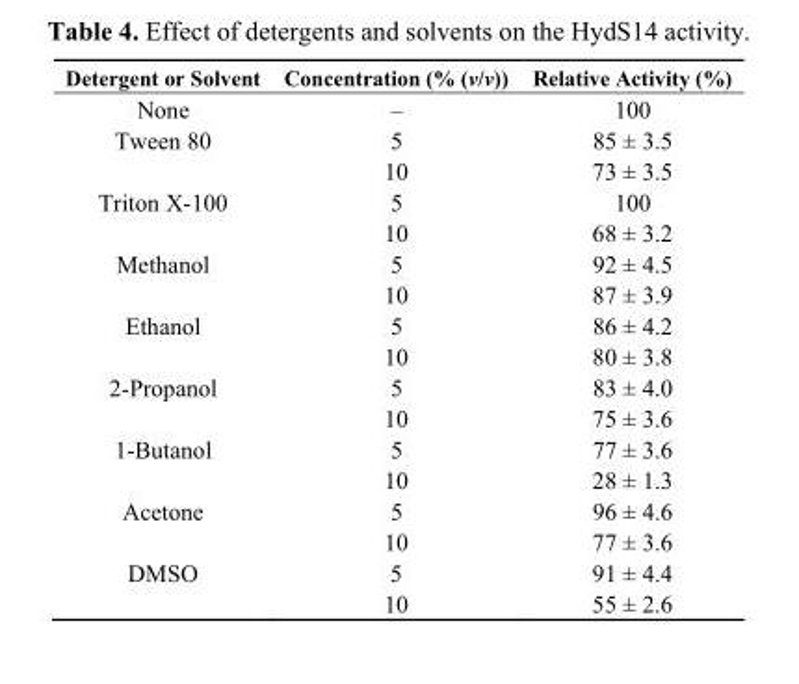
<table><thead><tr><td>Detergent or Solvent</td><td>Concentration (% (v/v))</td><td>Relative Activity (%)</td></tr></thead><tbody><tr><td>None</td><td>–</td><td>100</td></tr><tr><td rowspan="2">Tween 80</td><td>5</td><td>85 ± 3.5</td></tr><tr><td>10</td><td>73 ± 3.5</td></tr><tr><td rowspan="2">Triton X-100</td><td>5</td><td>100</td></tr><tr><td>10</td><td>68 ± 3.2</td></tr><tr><td rowspan="2">Methanol</td><td>5</td><td>92 ± 4.5</td></tr><tr><td>10</td><td>87 ± 3.9</td></tr><tr><td rowspan="2">Ethanol</td><td>5</td><td>86 ± 4.2</td></tr><tr><td>10</td><td>80 ± 3.8</td></tr><tr><td rowspan="2">2-Propanol</td><td>5</td><td>83 ± 4.0</td></tr><tr><td>10</td><td>75 ± 3.6</td></tr><tr><td rowspan="2">1-Butanol</td><td>5</td><td>77 ± 3.6</td></tr><tr><td>10</td><td>28 ± 1.3</td></tr><tr><td rowspan="2">Acetone</td><td>5</td><td>96 ± 4.6</td></tr><tr><td>10</td><td>77 ± 3.6</td></tr><tr><td rowspan="2">DMSO</td><td>5</td><td>91 ± 4.4</td></tr><tr><td>10</td><td>55 ± 2.6</td></tr></tbody></table>